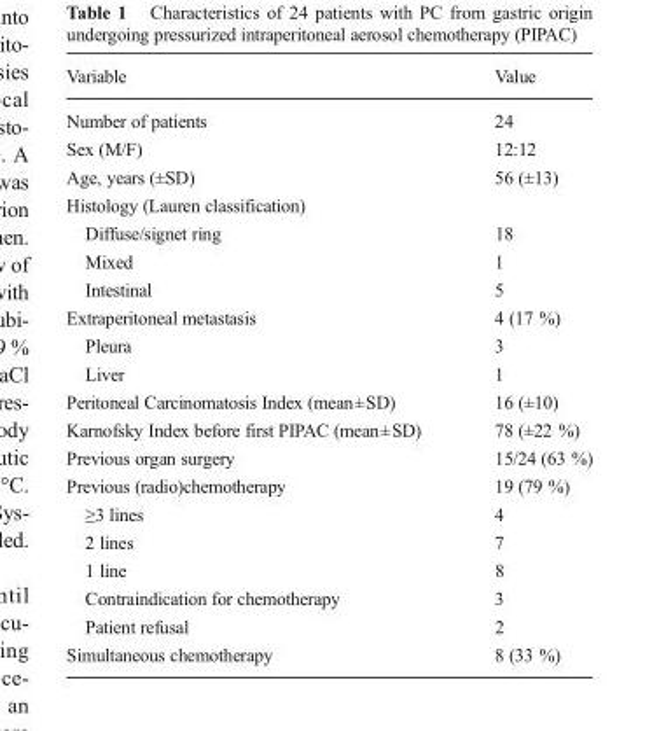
<table><thead><tr><td>Variable</td><td>Value</td></tr></thead><tbody><tr><td>Number of patients</td><td>24</td></tr><tr><td>Sex (M/F)</td><td>12:12</td></tr><tr><td>Age, years (±SD)</td><td>56 (±13)</td></tr><tr><td colspan="2">Histology (Lauren classification)</td></tr><tr><td>Diffuse/signet ring</td><td>18</td></tr><tr><td>Mixed</td><td>1</td></tr><tr><td>Intestinal</td><td>5</td></tr><tr><td>Extraperitoneal metastasis</td><td>4 (17 %)</td></tr><tr><td>Pleura</td><td>3</td></tr><tr><td>Liver</td><td>1</td></tr><tr><td>Peritoneal Carcinomatosis Index (mean±SD)</td><td>16 (±10)</td></tr><tr><td>Karnofsky Index before first PIPAC (mean±SD)</td><td>78 (±22 %)</td></tr><tr><td>Previous organ surgery</td><td>15/24 (63 %)</td></tr><tr><td>Previous (radio)chemotherapy</td><td>19 (79 %)</td></tr><tr><td>≥3 lines</td><td>4</td></tr><tr><td>2 lines</td><td>7</td></tr><tr><td>1 line</td><td>8</td></tr><tr><td>Contraindication for chemotherapy</td><td>3</td></tr><tr><td>Patient refusal</td><td>2</td></tr><tr><td>Simultaneous chemotherapy</td><td>8 (33 %)</td></tr></tbody></table>